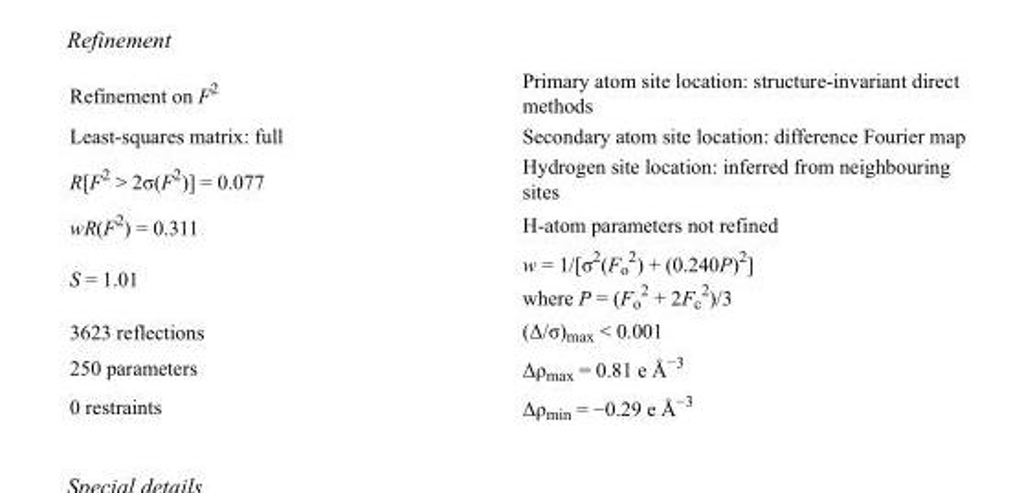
<table><tbody><tr><td>Refinement on F<sup>2</sup></td><td>Primary atom site location: structure-invariant direct methods</td></tr><tr><td>Least-squares matrix: full</td><td>Secondary atom site location: difference Fourier map</td></tr><tr><td>R[F<sup>2</sup> &gt; 2σ(F<sup>2</sup>)] = 0.077</td><td>Hydrogen site location: inferred from neighbouring sites</td></tr><tr><td>wR(F<sup>2</sup>) = 0.311</td><td>H-atom parameters not refined</td></tr><tr><td>S = 1.01</td><td>w = 1/[σ<sup>2</sup>(F<sub>o</sub> <sup>2</sup>) + (0.240P)<sup>2</sup>] where P = (F<sub>o</sub> <sup>2</sup> + 2F<sub>c</sub> <sup>2</sup>)/3</td></tr><tr><td>3623 reflections</td><td>(Δ/σ)<sub>max</sub> &lt; 0.001</td></tr><tr><td>250 parameters</td><td>Δρ<sub>max</sub> = 0.81 e Å<sup>−3</sup></td></tr><tr><td>0 restraints</td><td>Δρmin = −0.29 e Å−3</td></tr></tbody></table>